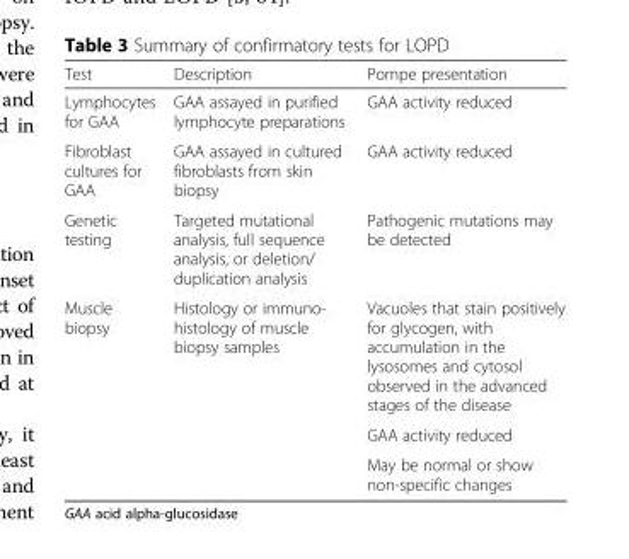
<table><thead><tr><td>Test</td><td>Description</td><td>Pompe presentation</td></tr></thead><tbody><tr><td>Lymphocytes for GAA</td><td>GAA assayed in purified lymphocyte preparations</td><td>GAA activity reduced</td></tr><tr><td>Fibroblast cultures for GAA</td><td>GAA assayed in cultured fibroblasts from skin biopsy</td><td>GAA activity reduced</td></tr><tr><td>Genetic testing</td><td>Targeted mutational analysis, full sequence analysis, or deletion/ duplication analysis</td><td>Pathogenic mutations may be detected</td></tr><tr><td rowspan="3">Muscle biopsy</td><td rowspan="3">Histology or immuno- histology of muscle biopsy samples</td><td>Vacuoles that stain positively for glycogen, with accumulation in the lysosomes and cytosol observed in the advanced stages of the disease</td></tr><tr><td>GAA activity reduced</td></tr><tr><td>May be normal or show non-specific changes</td></tr></tbody></table>